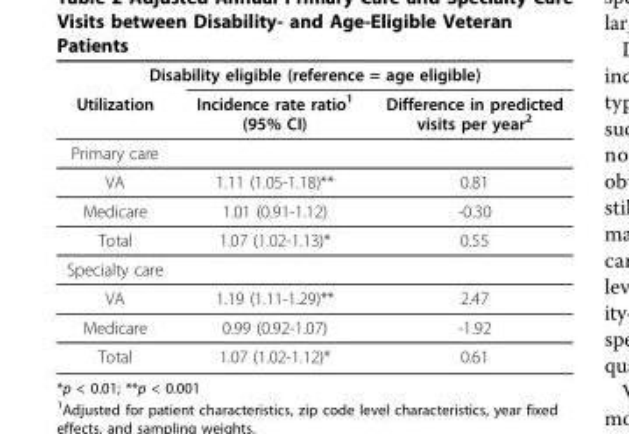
<table><thead><tr><td colspan="3">Disability eligible (reference = age eligible)</td></tr><tr><td>Utilization</td><td>Incidence rate ratio<sup>1</sup> (95% CI)</td><td>Difference in predicted visits per year<sup>2</sup></td></tr></thead><tbody><tr><td colspan="3">Primary care</td></tr><tr><td>VA</td><td>1.11 (1.05-1.18)**</td><td>0.81</td></tr><tr><td>Medicare</td><td>1.01 (0.91-1.12)</td><td>-0.30</td></tr><tr><td>Total</td><td>1.07 (1.02-1.13)*</td><td>0.55</td></tr><tr><td colspan="3">Specialty care</td></tr><tr><td>VA</td><td>1.19 (1.11-1.29)**</td><td>2.47</td></tr><tr><td>Medicare</td><td>0.99 (0.92-1.07)</td><td>-1.92</td></tr><tr><td>Total</td><td>1.07 (1.02-1.12)*</td><td>0.61</td></tr></tbody></table>